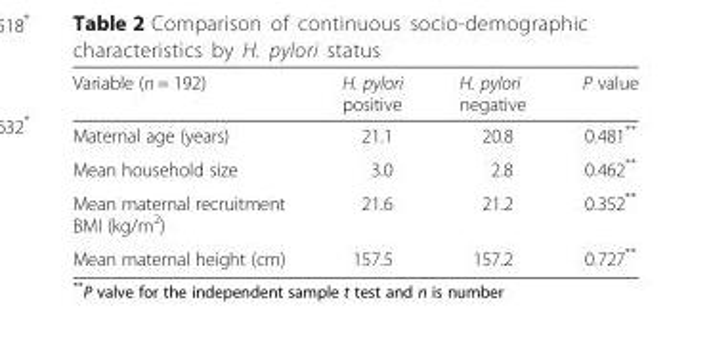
<table><thead><tr><td>Variable (n = 192)</td><td>H. pylori positive</td><td>H. pylori negative</td><td>P value</td></tr></thead><tbody><tr><td>Maternal age (years)</td><td>21.1</td><td>20.8</td><td>0.481**</td></tr><tr><td>Mean household size</td><td>3.0</td><td>2.8</td><td>0.462**</td></tr><tr><td>Mean maternal recruitment BMI (kg/m<sup>2</sup>)</td><td>21.6</td><td>21.2</td><td>0.352**</td></tr><tr><td>Mean maternal height (cm)</td><td>157.5</td><td>157.2</td><td>0.727**</td></tr></tbody></table>